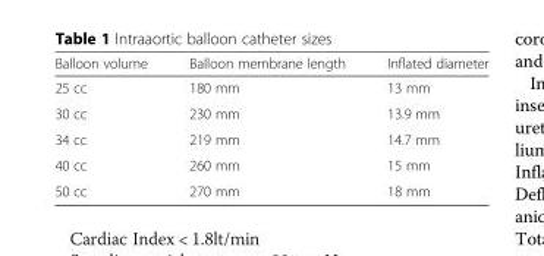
<table><thead><tr><td>Balloon volume</td><td>Balloon membrane length</td><td>Inflated diameter</td></tr></thead><tbody><tr><td>25 cc</td><td>180 mm</td><td>13 mm</td></tr><tr><td>30 cc</td><td>230 mm</td><td>13.9 mm</td></tr><tr><td>34 cc</td><td>219 mm</td><td>14.7 mm</td></tr><tr><td>40 cc</td><td>260 mm</td><td>15 mm</td></tr><tr><td>50 cc</td><td>270 mm</td><td>18 mm</td></tr></tbody></table>